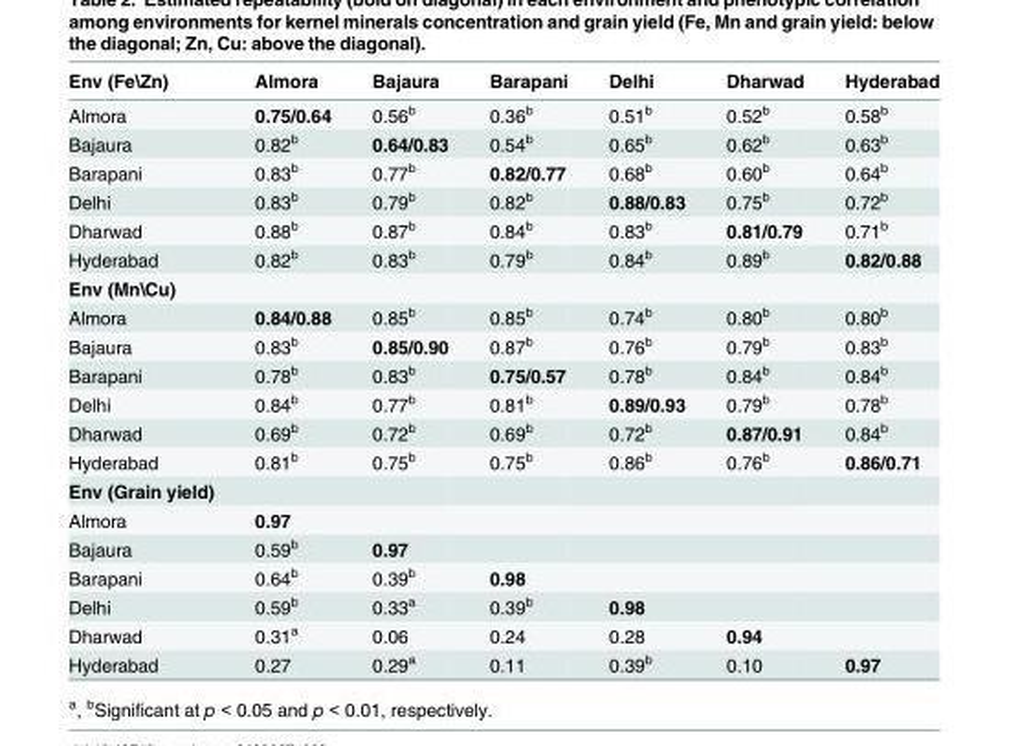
<table><thead><tr><td>Env (Fe\Zn)</td><td>Almora</td><td>Bajaura</td><td>Barapani</td><td>Delhi</td><td>Dharwad</td><td>Hyderabad</td></tr></thead><tbody><tr><td>Almora</td><td>0.75/0.64</td><td>0.56<sup>b</sup></td><td>0.36<sup>b</sup></td><td>0.51<sup>b</sup></td><td>0.52<sup>b</sup></td><td>0.58<sup>b</sup></td></tr><tr><td>Bajaura</td><td>0.82<sup>b</sup></td><td>0.64/0.83</td><td>0.54<sup>b</sup></td><td>0.65<sup>b</sup></td><td>0.62<sup>b</sup></td><td>0.63<sup>b</sup></td></tr><tr><td>Barapani</td><td>0.83<sup>b</sup></td><td>0.77<sup>b</sup></td><td>0.82/0.77</td><td>0.68<sup>b</sup></td><td>0.60<sup>b</sup></td><td>0.64<sup>b</sup></td></tr><tr><td>Delhi</td><td>0.83<sup>b</sup></td><td>0.79<sup>b</sup></td><td>0.82<sup>b</sup></td><td>0.88/0.83</td><td>0.75<sup>b</sup></td><td>0.72<sup>b</sup></td></tr><tr><td>Dharwad</td><td>0.88<sup>b</sup></td><td>0.87<sup>b</sup></td><td>0.84<sup>b</sup></td><td>0.83<sup>b</sup></td><td>0.81/0.79</td><td>0.71<sup>b</sup></td></tr><tr><td>Hyderabad</td><td>0.82<sup>b</sup></td><td>0.83<sup>b</sup></td><td>0.79<sup>b</sup></td><td>0.84<sup>b</sup></td><td>0.89<sup>b</sup></td><td>0.82/0.88</td></tr><tr><td colspan="7">Env (Mn\Cu)</td></tr><tr><td>Almora</td><td>0.84/0.88</td><td>0.85<sup>b</sup></td><td>0.85<sup>b</sup></td><td>0.74<sup>b</sup></td><td>0.80<sup>b</sup></td><td>0.80<sup>b</sup></td></tr><tr><td>Bajaura</td><td>0.83<sup>b</sup></td><td>0.85/0.90</td><td>0.87<sup>b</sup></td><td>0.76<sup>b</sup></td><td>0.79<sup>b</sup></td><td>0.83<sup>b</sup></td></tr><tr><td>Barapani</td><td>0.78<sup>b</sup></td><td>0.83<sup>b</sup></td><td>0.75/0.57</td><td>0.78<sup>b</sup></td><td>0.84<sup>b</sup></td><td>0.84<sup>b</sup></td></tr><tr><td>Delhi</td><td>0.84<sup>b</sup></td><td>0.77<sup>b</sup></td><td>0.81<sup>b</sup></td><td>0.89/0.93</td><td>0.79<sup>b</sup></td><td>0.78<sup>b</sup></td></tr><tr><td>Dharwad</td><td>0.69<sup>b</sup></td><td>0.72<sup>b</sup></td><td>0.69<sup>b</sup></td><td>0.72<sup>b</sup></td><td>0.87/0.91</td><td>0.84<sup>b</sup></td></tr><tr><td>Hyderabad</td><td>0.81<sup>b</sup></td><td>0.75<sup>b</sup></td><td>0.75<sup>b</sup></td><td>0.86<sup>b</sup></td><td>0.76<sup>b</sup></td><td>0.86/0.71</td></tr><tr><td colspan="7">Env (Grain yield)</td></tr><tr><td>Almora</td><td>0.97</td><td></td><td></td><td></td><td></td><td></td></tr><tr><td>Bajaura</td><td>0.59<sup>b</sup></td><td>0.97</td><td></td><td></td><td></td><td></td></tr><tr><td>Barapani</td><td>0.64<sup>b</sup></td><td>0.39<sup>b</sup></td><td>0.98</td><td></td><td></td><td></td></tr><tr><td>Delhi</td><td>0.59<sup>b</sup></td><td>0.33<sup>a</sup></td><td>0.39<sup>b</sup></td><td>0.98</td><td></td><td></td></tr><tr><td>Dharwad</td><td>0.31<sup>a</sup></td><td>0.06</td><td>0.24</td><td>0.28</td><td>0.94</td><td></td></tr><tr><td>Hyderabad</td><td>0.27</td><td>0.29<sup>a</sup></td><td>0.11</td><td>0.39<sup>b</sup></td><td>0.10</td><td>0.97</td></tr></tbody></table>